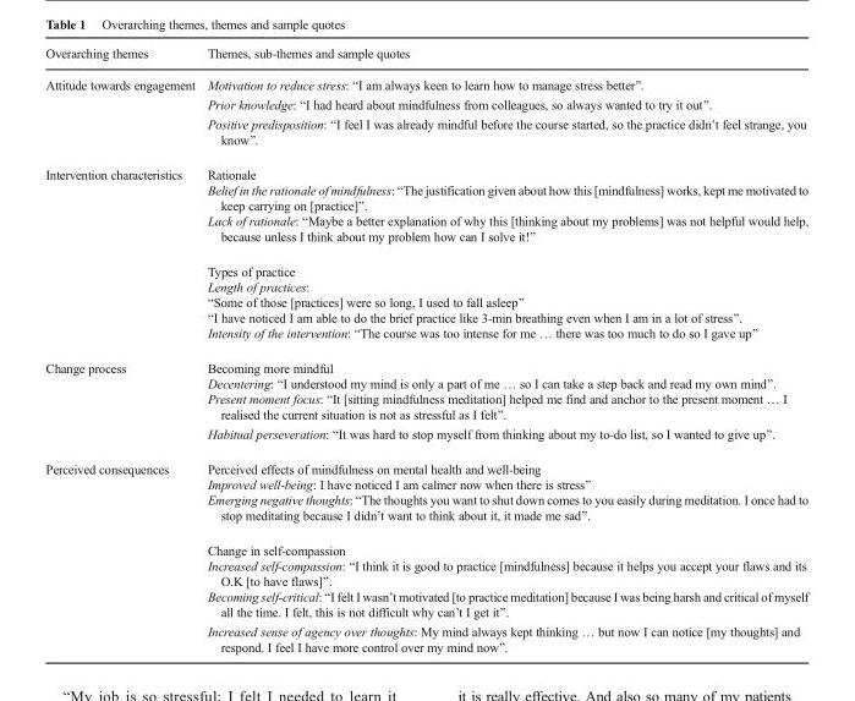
<table><thead><tr><td>Overarching themes</td><td>Themes, sub-themes and sample quotes</td></tr></thead><tbody><tr><td rowspan="3">Attitude towards engagement</td><td>Motivation to reduce stress: “I am always keen to learn how to manage stress better”.</td></tr><tr><td>Prior knowledge: “I had heard about mindfulness from colleagues, so always wanted to try it out”.</td></tr><tr><td>Positive predisposition: “I feel I was already mindful before the course started, so the practice didn’t feel strange, you know”.</td></tr><tr><td rowspan="2">Intervention characteristics</td><td>Rationale Belief in the rationale of mindfulness: “The justification given about how this [mindfulness] works, kept me motivated to keep carrying on [practice]”. Lack of rationale: “Maybe a better explanation of why this [thinking about my problems] was not helpful would help, because unless I think about my problem how can I solve it!”</td></tr><tr><td>Types of practice Length of practices: “Some of those [practices] were so long, I used to fall asleep” “I have noticed I am able to do the brief practice like 3-min breathing even when I am in a lot of stress”. Intensity of the intervention: “The course was too intense for me … there was too much to do so I gave up”</td></tr><tr><td rowspan="2">Change process</td><td>Becoming more mindful Decentering: “I understood my mind is only a part of me … so I can take a step back and read my own mind”. Present moment focus: “It [sitting mindfulness meditation] helped me find and anchor to the present moment … I realised the current situation is not as stressful as I felt”.</td></tr><tr><td>Habitual perseveration: “It was hard to stop myself from thinking about my to-do list, so I wanted to give up”.</td></tr><tr><td rowspan="3">Perceived consequences</td><td>Perceived effects of mindfulness on mental health and well-being Improved well-being: I have noticed I am calmer now when there is stress” Emerging negative thoughts: “The thoughts you want to shut down comes to you easily during meditation. I once had to stop meditating because I didn’t want to think about it, it made me sad”.</td></tr><tr><td>Change in self-compassion Increased self-compassion: “I think it is good to practice [mindfulness] because it helps you accept your flaws and its O.K [to have flaws]”. Becoming self-critical: “I felt I wasn’t motivated [to practice meditation] because I was being harsh and critical of myself all the time. I felt, this is not difficult why can’t I get it”.</td></tr><tr><td>Increased sense of agency over thoughts: My mind always kept thinking … but now I can notice [my thoughts] and respond. I feel I have more control over my mind now”.</td></tr></tbody></table>